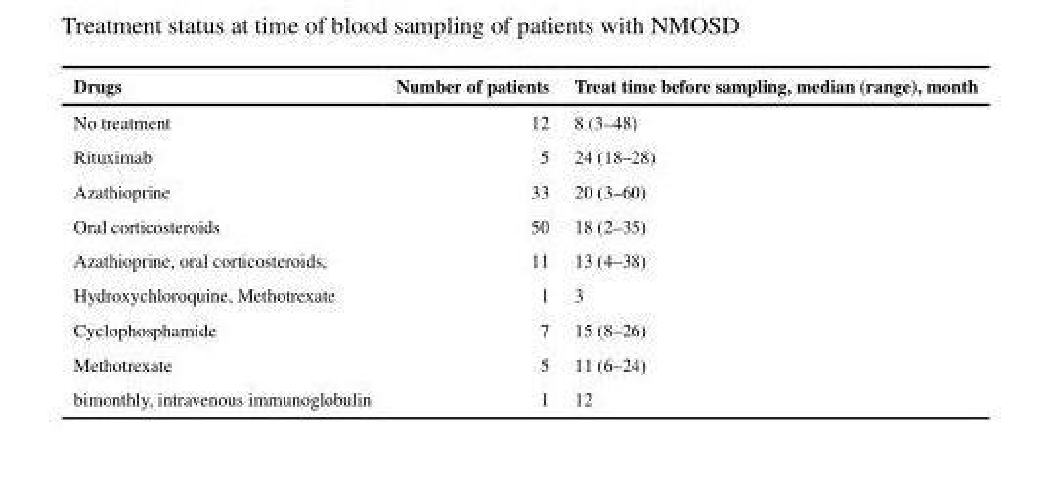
<table><thead><tr><td>Drugs</td><td>Number of patients</td><td>Treat time before sampling, median (range), month</td></tr></thead><tbody><tr><td>No treatment</td><td>12</td><td>8 (3–48)</td></tr><tr><td>Rituximab</td><td>5</td><td>24 (18–28)</td></tr><tr><td>Azathioprine</td><td>33</td><td>20 (3–60)</td></tr><tr><td>Oral corticosteroids</td><td>50</td><td>18 (2–35)</td></tr><tr><td>Azathioprine, oral corticosteroids,</td><td>11</td><td>13 (4–38)</td></tr><tr><td>Hydroxychloroquine, Methotrexate</td><td>1</td><td>3</td></tr><tr><td>Cyclophosphamide</td><td>7</td><td>15 (8–26)</td></tr><tr><td>Methotrexate</td><td>5</td><td>11 (6–24)</td></tr><tr><td>bimonthly, intravenous immunoglobulin</td><td>1</td><td>12</td></tr></tbody></table>